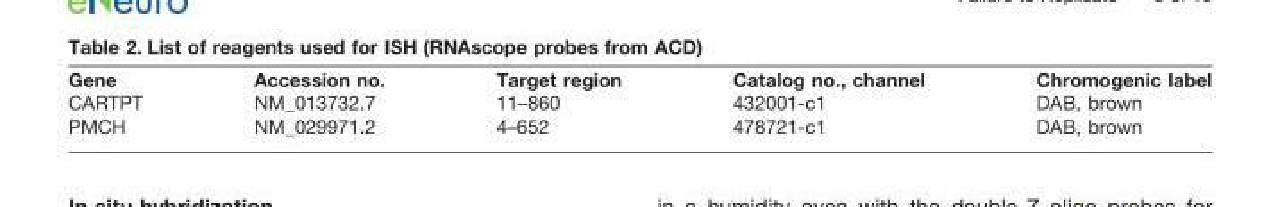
<table><thead><tr><td>Gene</td><td>Accession no.</td><td>Target region</td><td>Catalog no., channel</td><td>Chromogenic label</td></tr></thead><tbody><tr><td>CARTPT</td><td>NM_013732.7</td><td>11–860</td><td>432001-c1</td><td>DAB, brown</td></tr><tr><td>PMCH</td><td>NM_029971.2</td><td>4–652</td><td>478721-c1</td><td>DAB, brown</td></tr></tbody></table>